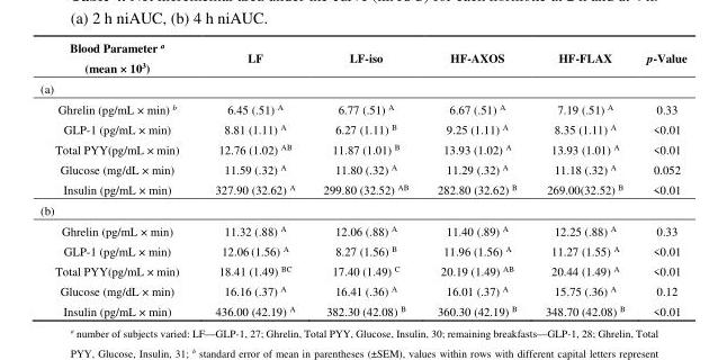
<table><thead><tr><td>Blood Parameter <sup>a</sup> (mean × 10<sup>3</sup>)</td><td>LF</td><td>LF-iso</td><td>HF-AXOS</td><td>HF-FLAX</td><td>p-Value</td></tr></thead><tbody><tr><td colspan="6">(a)</td></tr><tr><td>Ghrelin (pg/mL × min) <sup>b</sup></td><td>6.45 (.51) <sup>A</sup></td><td>6.77 (.51) <sup>A</sup></td><td>6.67 (.51) <sup>A</sup></td><td>7.19 (.51) <sup>A</sup></td><td>0.33</td></tr><tr><td>GLP-1 (pg/mL × min)</td><td>8.81 (1.11) <sup>A</sup></td><td>6.27 (1.11) <sup>B</sup></td><td>9.25 (1.11) <sup>A</sup></td><td>8.35 (1.11) <sup>A</sup></td><td>&lt;0.01</td></tr><tr><td>Total PYY(pg/mL × min)</td><td>12.76 (1.02) <sup>AB</sup></td><td>11.87 (1.01) <sup>B</sup></td><td>13.93 (1.02) <sup>A</sup></td><td>13.93 (1.01) <sup>A</sup></td><td>&lt;0.01</td></tr><tr><td>Glucose (mg/dL × min)</td><td>11.59 (.32) <sup>A</sup></td><td>11.80 (.32) <sup>A</sup></td><td>11.29 (.32) <sup>A</sup></td><td>11.18 (.32) <sup>A</sup></td><td>0.052</td></tr><tr><td>Insulin (pg/mL × min)</td><td>327.90 (32.62) <sup>A</sup></td><td>299.80 (32.52) <sup>AB</sup></td><td>282.80 (32.62) <sup>B</sup></td><td>269.00(32.52) <sup>B</sup></td><td>&lt;0.01</td></tr><tr><td colspan="6">(b)</td></tr><tr><td>Ghrelin (pg/mL × min)</td><td>11.32 (.88) <sup>A</sup></td><td>12.06 (.88) <sup>A</sup></td><td>11.40 (.89) <sup>A</sup></td><td>12.25 (.88) <sup>A</sup></td><td>0.33</td></tr><tr><td>GLP-1 (pg/mL × min)</td><td>12.06 (1.56) <sup>A</sup></td><td>8.27 (1.56) <sup>B</sup></td><td>11.96 (1.56) <sup>A</sup></td><td>11.27 (1.55) <sup>A</sup></td><td>&lt;0.01</td></tr><tr><td>Total PYY(pg/mL × min)</td><td>18.41 (1.49) <sup>BC</sup></td><td>17.40 (1.49) <sup>C</sup></td><td>20.19 (1.49) <sup>AB</sup></td><td>20.44 (1.49) <sup>A</sup></td><td>&lt;0.01</td></tr><tr><td>Glucose (mg/dL × min)</td><td>16.16 (.37) <sup>A</sup></td><td>16.41 (.36) <sup>A</sup></td><td>16.01 (.37) <sup>A</sup></td><td>15.75 (.36) <sup>A</sup></td><td>0.12</td></tr><tr><td>Insulin (pg/mL × min)</td><td>436.00 (42.19) <sup>A</sup></td><td>382.30 (42.08) <sup>B</sup></td><td>360.30 (42.19) <sup>B</sup></td><td>348.70 (42.08) <sup>B</sup></td><td>&lt;0.01</td></tr></tbody></table>